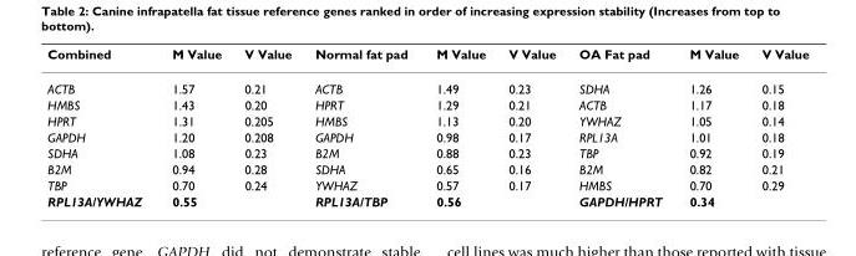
<table><thead><tr><td>Combined</td><td>M Value</td><td>V Value</td><td>Normal fat pad</td><td>M Value</td><td>V Value</td><td>OA Fat pad</td><td>M Value</td><td>V Value</td></tr></thead><tbody><tr><td>ACTB</td><td>1.57</td><td>0.21</td><td>ACTB</td><td>1.49</td><td>0.23</td><td>SDHA</td><td>1.26</td><td>0.15</td></tr><tr><td>HMBS</td><td>1.43</td><td>0.20</td><td>HPRT</td><td>1.29</td><td>0.21</td><td>ACTB</td><td>1.17</td><td>0.18</td></tr><tr><td>HPRT</td><td>1.31</td><td>0.205</td><td>HMBS</td><td>1.13</td><td>0.20</td><td>YWHAZ</td><td>1.05</td><td>0.14</td></tr><tr><td>GAPDH</td><td>1.20</td><td>0.208</td><td>GAPDH</td><td>0.98</td><td>0.17</td><td>RPL13A</td><td>1.01</td><td>0.18</td></tr><tr><td>SDHA</td><td>1.08</td><td>0.23</td><td>B2M</td><td>0.88</td><td>0.23</td><td>TBP</td><td>0.92</td><td>0.19</td></tr><tr><td>B2M</td><td>0.94</td><td>0.28</td><td>SDHA</td><td>0.65</td><td>0.16</td><td>B2M</td><td>0.82</td><td>0.21</td></tr><tr><td>TBP</td><td>0.70</td><td>0.24</td><td>YWHAZ</td><td>0.57</td><td>0.17</td><td>HMBS</td><td>0.70</td><td>0.29</td></tr><tr><td>RPL13A/YWHAZ</td><td>0.55</td><td></td><td>RPL13A/TBP</td><td>0.56</td><td></td><td>GAPDH/HPRT</td><td>0.34</td><td></td></tr></tbody></table>